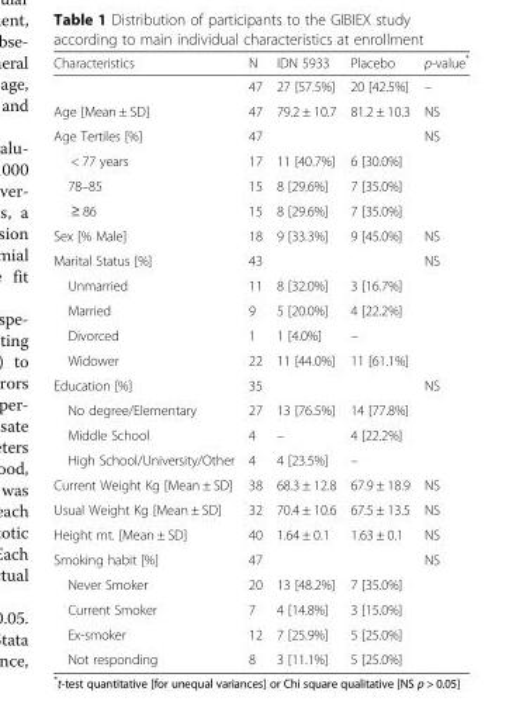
<table><thead><tr><td>Characteristics</td><td>N</td><td>IDN 5933</td><td>Placebo</td><td>p-value*</td></tr></thead><tbody><tr><td></td><td>47</td><td>27 [57.5%]</td><td>20 [42.5%]</td><td>–</td></tr><tr><td>Age [Mean ± SD]</td><td>47</td><td>79.2 ± 10.7</td><td>81.2 ± 10.3</td><td>NS</td></tr><tr><td>Age Tertiles [%]</td><td>47</td><td></td><td></td><td>NS</td></tr><tr><td>&lt; 77 years</td><td>17</td><td>11 [40.7%]</td><td>6 [30.0%]</td><td></td></tr><tr><td>78–85</td><td>15</td><td>8 [29.6%]</td><td>7 [35.0%]</td><td></td></tr><tr><td>≥ 86</td><td>15</td><td>8 [29.6%]</td><td>7 [35.0%]</td><td></td></tr><tr><td>Sex [% Male]</td><td>18</td><td>9 [33.3%]</td><td>9 [45.0%]</td><td>NS</td></tr><tr><td>Marital Status [%]</td><td>43</td><td></td><td></td><td>NS</td></tr><tr><td>Unmarried</td><td>11</td><td>8 [32.0%]</td><td>3 [16.7%]</td><td></td></tr><tr><td>Married</td><td>9</td><td>5 [20.0%]</td><td>4 [22.2%]</td><td></td></tr><tr><td>Divorced</td><td>1</td><td>1 [4.0%]</td><td>–</td><td></td></tr><tr><td>Widower</td><td>22</td><td>11 [44.0%]</td><td>11 [61.1%]</td><td></td></tr><tr><td>Education [%]</td><td>35</td><td></td><td></td><td>NS</td></tr><tr><td>No degree/Elementary</td><td>27</td><td>13 [76.5%]</td><td>14 [77.8%]</td><td></td></tr><tr><td>Middle School</td><td>4</td><td>–</td><td>4 [22.2%]</td><td></td></tr><tr><td>High School/University/Other</td><td>4</td><td>4 [23.5%]</td><td>–</td><td></td></tr><tr><td>Current Weight Kg [Mean ± SD]</td><td>38</td><td>68.3 ± 12.8</td><td>67.9 ± 18.9</td><td>NS</td></tr><tr><td>Usual Weight Kg [Mean ± SD]</td><td>32</td><td>70.4 ± 10.6</td><td>67.5 ± 13.5</td><td>NS</td></tr><tr><td>Height mt. [Mean ± SD]</td><td>40</td><td>1.64 ± 0.1</td><td>1.63 ± 0.1</td><td>NS</td></tr><tr><td>Smoking habit [%]</td><td>47</td><td></td><td></td><td>NS</td></tr><tr><td>Never Smoker</td><td>20</td><td>13 [48.2%]</td><td>7 [35.0%]</td><td></td></tr><tr><td>Current Smoker</td><td>7</td><td>4 [14.8%]</td><td>3 [15.0%]</td><td></td></tr><tr><td>Ex-smoker</td><td>12</td><td>7 [25.9%]</td><td>5 [25.0%]</td><td></td></tr><tr><td>Not responding</td><td>8</td><td>3 [11.1%]</td><td>5 [25.0%]</td><td></td></tr></tbody></table>